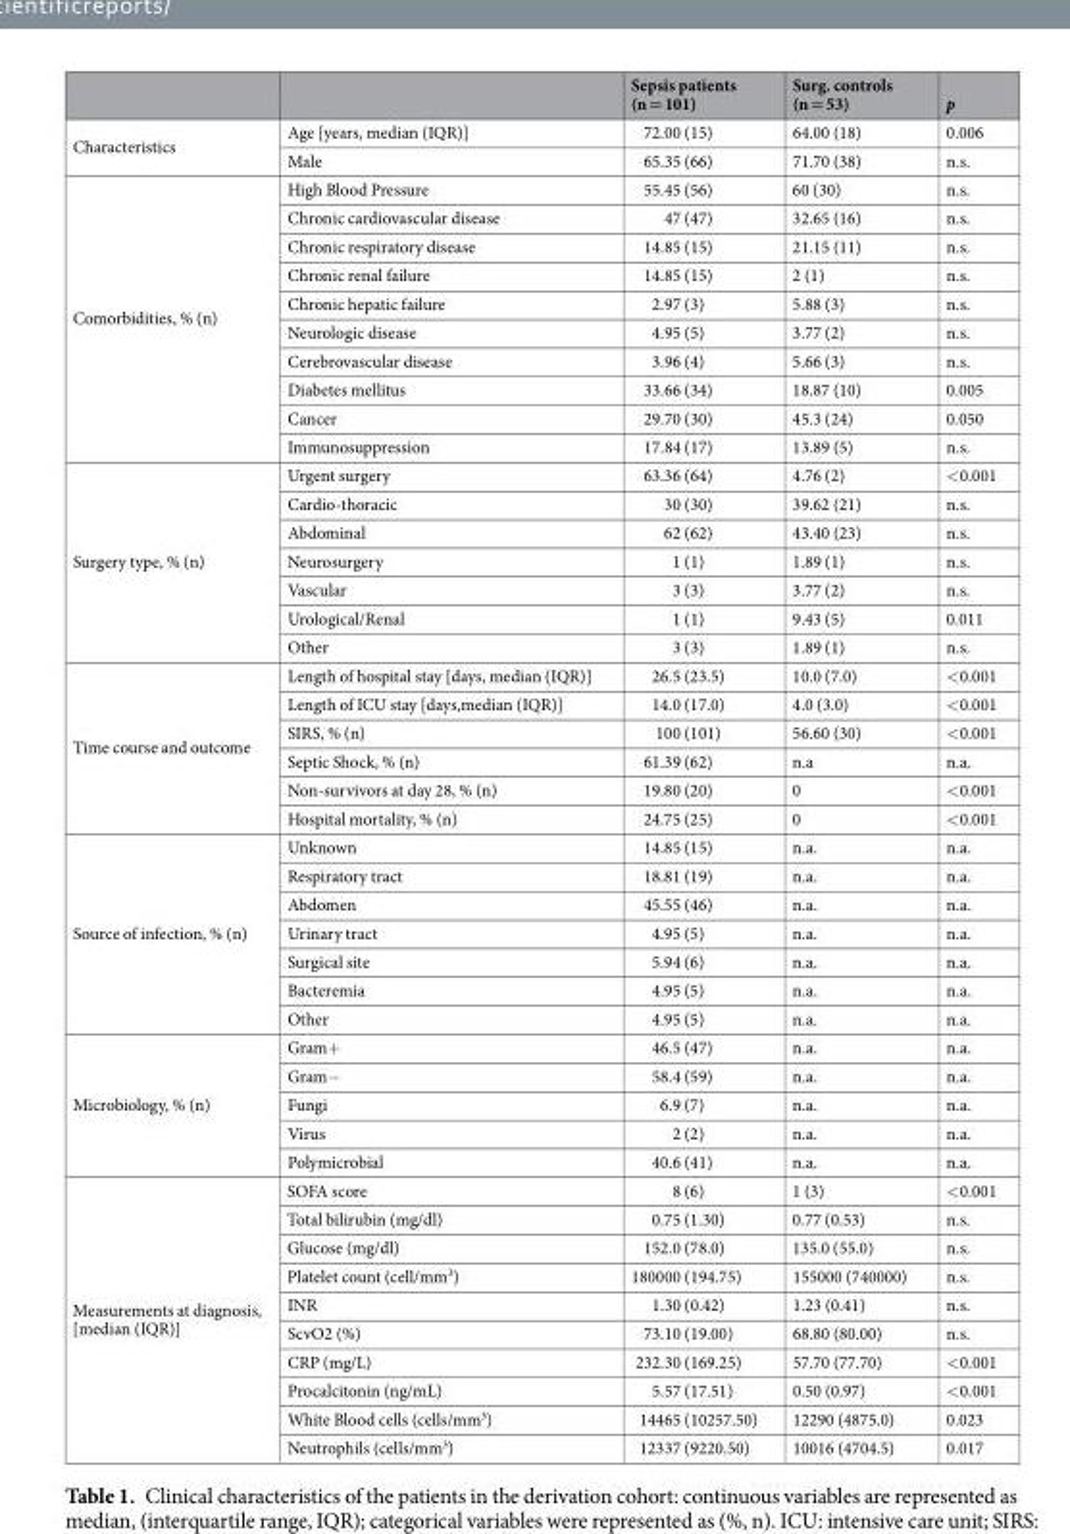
<table><thead><tr><td></td><td></td><td>Sepsis patients (n = 101)</td><td>Surg. controls (n = 53)</td><td>p</td></tr></thead><tbody><tr><td rowspan="2">Characteristics</td><td>Age [years, median (IQR)]</td><td>72.00 (15)</td><td>64.00 (18)</td><td>0.006</td></tr><tr><td>Male</td><td>65.35 (66)</td><td>71.70 (38)</td><td>n.s.</td></tr><tr><td rowspan="10">Comorbidities, % (n)</td><td>High Blood Pressure</td><td>55.45 (56)</td><td>60 (30)</td><td>n.s.</td></tr><tr><td>Chronic cardiovascular disease</td><td>47 (47)</td><td>32.65 (16)</td><td>n.s.</td></tr><tr><td>Chronic respiratory disease</td><td>14.85 (15)</td><td>21.15 (11)</td><td>n.s.</td></tr><tr><td>Chronic renal failure</td><td>14.85 (15)</td><td>2 (1)</td><td>n.s.</td></tr><tr><td>Chronic hepatic failure</td><td>2.97 (3)</td><td>5.88 (3)</td><td>n.s.</td></tr><tr><td>Neurologic disease</td><td>4.95 (5)</td><td>3.77 (2)</td><td>n.s.</td></tr><tr><td>Cerebrovascular disease</td><td>3.96 (4)</td><td>5.66 (3)</td><td>n.s.</td></tr><tr><td>Diabetes mellitus</td><td>33.66 (34)</td><td>18.87 (10)</td><td>0.005</td></tr><tr><td>Cancer</td><td>29.70 (30)</td><td>45.3 (24)</td><td>0.050</td></tr><tr><td>Immunosuppression</td><td>17.84 (17)</td><td>13.89 (5)</td><td>n.s.</td></tr><tr><td rowspan="7">Surgery type, % (n)</td><td>Urgent surgery</td><td>63.36 (64)</td><td>4.76 (2)</td><td>&lt;0.001</td></tr><tr><td>Cardio-thoracic</td><td>30 (30)</td><td>39.62 (21)</td><td>n.s.</td></tr><tr><td>Abdominal</td><td>62 (62)</td><td>43.40 (23)</td><td>n.s.</td></tr><tr><td>Neurosurgery</td><td>1 (1)</td><td>1.89 (1)</td><td>n.s.</td></tr><tr><td>Vascular</td><td>3 (3)</td><td>3.77 (2)</td><td>n.s.</td></tr><tr><td>Urological/Renal</td><td>1 (1)</td><td>9.43 (5)</td><td>0.011</td></tr><tr><td>Other</td><td>3 (3)</td><td>1.89 (1)</td><td>n.s.</td></tr><tr><td rowspan="6">Time course and outcome</td><td>Length of hospital stay [days, median (IQR)]</td><td>26.5 (23.5)</td><td>10.0 (7.0)</td><td>&lt;0.001</td></tr><tr><td>Length of ICU stay [days,median (IQR)]</td><td>14.0 (17.0)</td><td>4.0 (3.0)</td><td>&lt;0.001</td></tr><tr><td>SIRS, % (n)</td><td>100 (101)</td><td>56.60 (30)</td><td>&lt;0.001</td></tr><tr><td>Septic Shock, % (n)</td><td>61.39 (62)</td><td>n.a</td><td>n.a.</td></tr><tr><td>Non-survivors at day 28, % (n)</td><td>19.80 (20)</td><td>0</td><td>&lt;0.001</td></tr><tr><td>Hospital mortality, % (n)</td><td>24.75 (25)</td><td>0</td><td>&lt;0.001</td></tr><tr><td rowspan="7">Source of infection, % (n)</td><td>Unknown</td><td>14.85 (15)</td><td>n.a.</td><td>n.a.</td></tr><tr><td>Respiratory tract</td><td>18.81 (19)</td><td>n.a.</td><td>n.a.</td></tr><tr><td>Abdomen</td><td>45.55 (46)</td><td>n.a.</td><td>n.a.</td></tr><tr><td>Urinary tract</td><td>4.95 (5)</td><td>n.a.</td><td>n.a.</td></tr><tr><td>Surgical site</td><td>5.94 (6)</td><td>n.a.</td><td>n.a.</td></tr><tr><td>Bacteremia</td><td>4.95 (5)</td><td>n.a.</td><td>n.a.</td></tr><tr><td>Other</td><td>4.95 (5)</td><td>n.a.</td><td>n.a.</td></tr><tr><td rowspan="5">Microbiology, % (n)</td><td>Gram+</td><td>46.5 (47)</td><td>n.a.</td><td>n.a.</td></tr><tr><td>Gram−</td><td>58.4 (59)</td><td>n.a.</td><td>n.a.</td></tr><tr><td>Fungi</td><td>6.9 (7)</td><td>n.a.</td><td>n.a.</td></tr><tr><td>Virus</td><td>2 (2)</td><td>n.a.</td><td>n.a.</td></tr><tr><td>Polymicrobial</td><td>40.6 (41)</td><td>n.a.</td><td>n.a.</td></tr><tr><td rowspan="10">Measurements at diagnosis, [median (IQR)]</td><td>SOFA score</td><td>8 (6)</td><td>1 (3)</td><td>&lt;0.001</td></tr><tr><td>Total bilirubin (mg/dl)</td><td>0.75 (1.30)</td><td>0.77 (0.53)</td><td>n.s.</td></tr><tr><td>Glucose (mg/dl)</td><td>152.0 (78.0)</td><td>135.0 (55.0)</td><td>n.s.</td></tr><tr><td>Platelet count (cell/mm<sup>3</sup>)</td><td>180000 (194.75)</td><td>155000 (740000)</td><td>n.s.</td></tr><tr><td>INR</td><td>1.30 (0.42)</td><td>1.23 (0.41)</td><td>n.s.</td></tr><tr><td>ScvO2 (%)</td><td>73.10 (19.00)</td><td>68.80 (80.00)</td><td>n.s.</td></tr><tr><td>CRP (mg/L)</td><td>232.30 (169.25)</td><td>57.70 (77.70)</td><td>&lt;0.001</td></tr><tr><td>Procalcitonin (ng/mL)</td><td>5.57 (17.51)</td><td>0.50 (0.97)</td><td>&lt;0.001</td></tr><tr><td>White Blood cells (cells/mm<sup>3</sup>)</td><td>14465 (10257.50)</td><td>12290 (4875.0)</td><td>0.023</td></tr><tr><td>Neutrophils (cells/mm<sup>3</sup>)</td><td>12337 (9220.50)</td><td>10016 (4704.5)</td><td>0.017</td></tr></tbody></table>